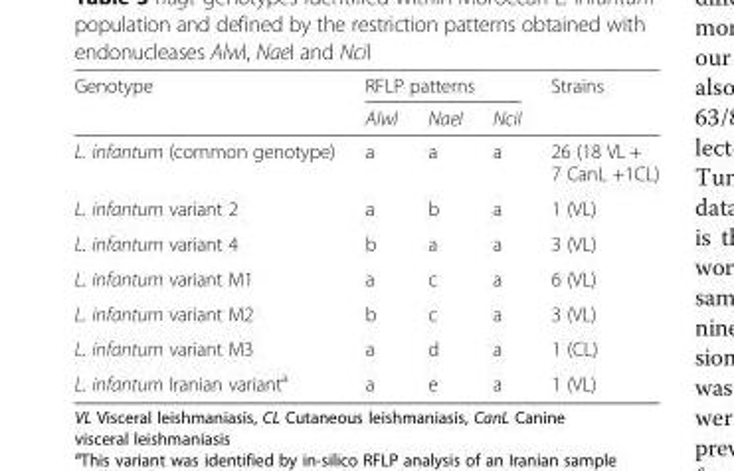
<table><thead><tr><td rowspan="2">Genotype</td><td colspan="3">RFLP patterns</td><td rowspan="2">Strains</td></tr><tr><td>AlwI</td><td>NaeI</td><td>NciI</td></tr></thead><tbody><tr><td>L. infantum (common genotype)</td><td>a</td><td>a</td><td>a</td><td>26 (18 VL + 7 CanL +1CL)</td></tr><tr><td>L. infantum variant 2</td><td>a</td><td>b</td><td>a</td><td>1 (VL)</td></tr><tr><td>L. infantum variant 4</td><td>b</td><td>a</td><td>a</td><td>3 (VL)</td></tr><tr><td>L. infantum variant M1</td><td>a</td><td>c</td><td>a</td><td>6 (VL)</td></tr><tr><td>L. infantum variant M2</td><td>b</td><td>c</td><td>a</td><td>3 (VL)</td></tr><tr><td>L. infantum variant M3</td><td>a</td><td>d</td><td>a</td><td>1 (CL)</td></tr><tr><td>L. infantum Iranian variant<sup>a</sup></td><td>a</td><td>e</td><td>a</td><td>1 (VL)</td></tr></tbody></table>